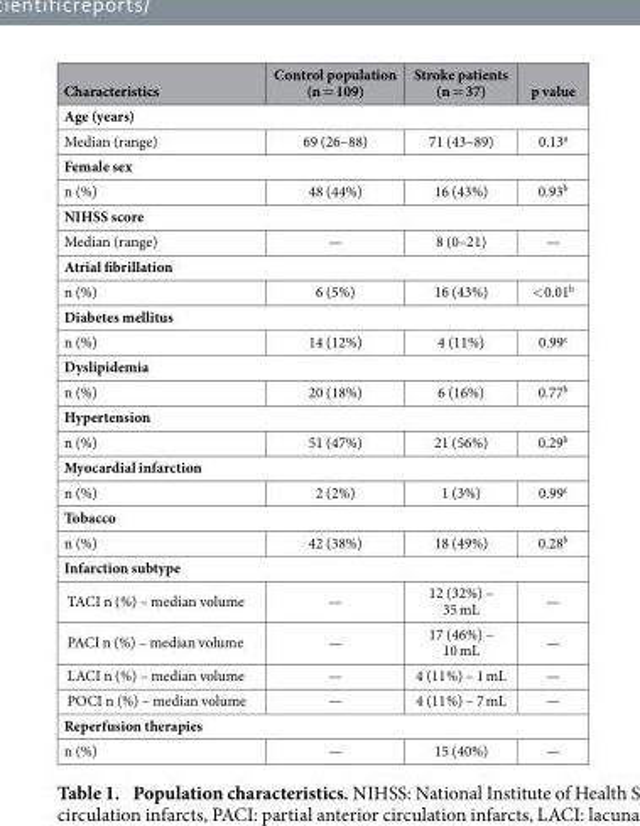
<table><thead><tr><td>Characteristics</td><td>Control population (n = 109)</td><td>Stroke patients (n = 37)</td><td>p value</td></tr></thead><tbody><tr><td colspan="4">Age (years)</td></tr><tr><td>Median (range)</td><td>69 (26–88)</td><td>71 (43–89)</td><td>0.13<sup>a</sup></td></tr><tr><td colspan="4">Female sex</td></tr><tr><td>n (%)</td><td>48 (44%)</td><td>16 (43%)</td><td>0.93<sup>b</sup></td></tr><tr><td colspan="4">NIHSS score</td></tr><tr><td>Median (range)</td><td>—</td><td>8 (0–21)</td><td>—</td></tr><tr><td colspan="4">Atrial fibrillation</td></tr><tr><td>n (%)</td><td>6 (5%)</td><td>16 (43%)</td><td>&lt; 0.01<sup>b</sup></td></tr><tr><td colspan="4">Diabetes mellitus</td></tr><tr><td>n (%)</td><td>14 (12%)</td><td>4 (11%)</td><td>0.99<sup>c</sup></td></tr><tr><td colspan="4">Dyslipidemia</td></tr><tr><td>n (%)</td><td>20 (18%)</td><td>6 (16%)</td><td>0.77<sup>b</sup></td></tr><tr><td colspan="4">Hypertension</td></tr><tr><td>n (%)</td><td>51 (47%)</td><td>21 (56%)</td><td>0.29<sup>b</sup></td></tr><tr><td colspan="4">Myocardial infarction</td></tr><tr><td>n (%)</td><td>2 (2%)</td><td>1 (3%)</td><td>0.99<sup>c</sup></td></tr><tr><td colspan="4">Tobacco</td></tr><tr><td>n (%)</td><td>42 (38%)</td><td>18 (49%)</td><td>0.28<sup>b</sup></td></tr><tr><td colspan="4">Infarction subtype</td></tr><tr><td>TACI n (%) – median volume</td><td>—</td><td>12 (32%) – 35 mL</td><td>—</td></tr><tr><td>PACI n (%) – median volume</td><td>—</td><td>17 (46%) – 10 mL</td><td>—</td></tr><tr><td>LACI n (%) – median volume</td><td>—</td><td>4 (11%) – 1 mL</td><td>—</td></tr><tr><td>POCI n (%) – median volume</td><td>—</td><td>4 (11%) – 7 mL</td><td>—</td></tr><tr><td colspan="4">Reperfusion therapies</td></tr><tr><td>n (%)</td><td>—</td><td>15 (40%)</td><td>—</td></tr></tbody></table>